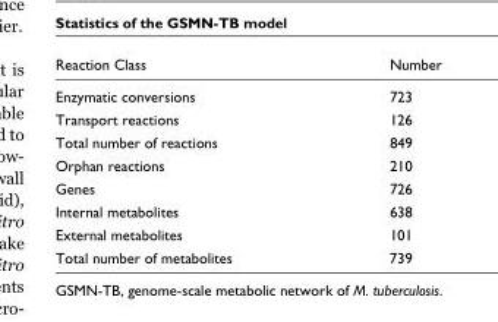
<table><thead><tr><td>Reaction Class</td><td>Number</td></tr></thead><tbody><tr><td>Enzymatic conversions</td><td>723</td></tr><tr><td>Transport reactions</td><td>126</td></tr><tr><td>Total number of reactions</td><td>849</td></tr><tr><td>Orphan reactions</td><td>210</td></tr><tr><td>Genes</td><td>726</td></tr><tr><td>Internal metabolites</td><td>638</td></tr><tr><td>External metabolites</td><td>101</td></tr><tr><td>Total number of metabolites</td><td>739</td></tr></tbody></table>